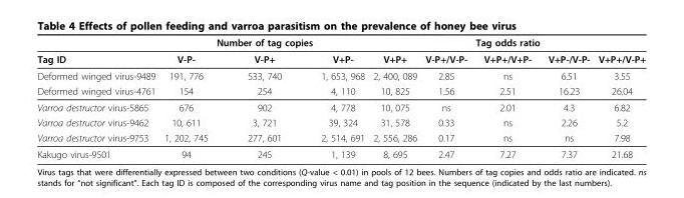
<table><thead><tr><td></td><td></td><td>Number of tag copies</td><td></td><td></td><td></td><td>Tag odds ratio</td><td></td><td></td></tr></thead><tbody><tr><td>Tag ID</td><td>V-P-</td><td>V-P+</td><td>V+P-</td><td>V+P+</td><td>V-P+/V-P-</td><td>V+P+/V+P-</td><td>V+P-/V-P-</td><td>V+P+/V-P+</td></tr><tr><td>Deformed winged virus-9489</td><td>191, 776</td><td>533, 740</td><td>1, 653, 968</td><td>2, 400, 089</td><td>2.85</td><td>ns</td><td>6.51</td><td>3.55</td></tr><tr><td>Deformed winged virus-4761</td><td>154</td><td>254</td><td>4, 110</td><td>10, 825</td><td>1.56</td><td>2.51</td><td>16.23</td><td>26.04</td></tr><tr><td>Varroa destructor virus-5865</td><td>676</td><td>902</td><td>4, 778</td><td>10, 075</td><td>ns</td><td>2.01</td><td>4.3</td><td>6.82</td></tr><tr><td>Varroa destructor virus-9462</td><td>10, 611</td><td>3, 721</td><td>39, 324</td><td>31, 578</td><td>0.33</td><td>ns</td><td>2.26</td><td>5.2</td></tr><tr><td>Varroa destructor virus-9753</td><td>1, 202, 745</td><td>277, 601</td><td>2, 514, 691</td><td>2, 556, 286</td><td>0.17</td><td>ns</td><td>ns</td><td>7.98</td></tr><tr><td>Kakugo virus-9501</td><td>94</td><td>245</td><td>1, 139</td><td>8, 695</td><td>2.47</td><td>7.27</td><td>7.37</td><td>21.68</td></tr></tbody></table>